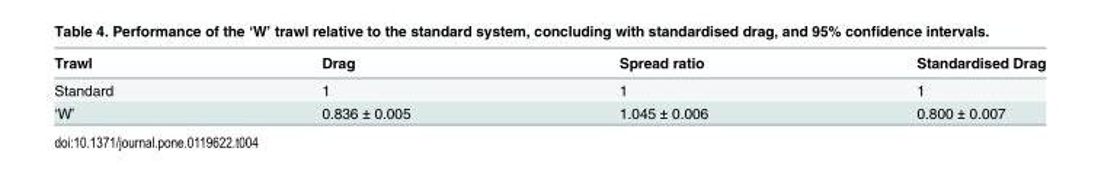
<table><thead><tr><td>Trawl</td><td>Drag</td><td>Spread ratio</td><td>Standardised Drag</td></tr></thead><tbody><tr><td>Standard</td><td>1</td><td>1</td><td>1</td></tr><tr><td>‘W’</td><td>0.836 ± 0.005</td><td>1.045 ± 0.006</td><td>0.800 ± 0.007</td></tr></tbody></table>